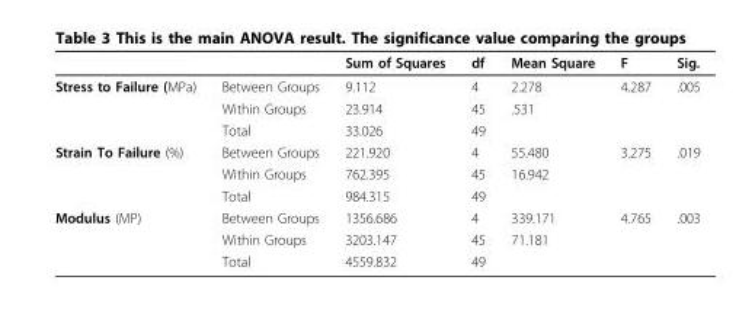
<table><thead><tr><td></td><td></td><td>Sum of Squares</td><td>df</td><td>Mean Square</td><td>F</td><td>Sig.</td></tr></thead><tbody><tr><td rowspan="3">Stress to Failure (MPa)</td><td>Between Groups</td><td>9.112</td><td>4</td><td>2.278</td><td>4.287</td><td>.005</td></tr><tr><td>Within Groups</td><td>23.914</td><td>45</td><td>.531</td><td></td><td></td></tr><tr><td>Total</td><td>33.026</td><td>49</td><td></td><td></td><td></td></tr><tr><td rowspan="3">Strain To Failure (%)</td><td>Between Groups</td><td>221.920</td><td>4</td><td>55.480</td><td>3.275</td><td>.019</td></tr><tr><td>Within Groups</td><td>762.395</td><td>45</td><td>16.942</td><td></td><td></td></tr><tr><td>Total</td><td>984.315</td><td>49</td><td></td><td></td><td></td></tr><tr><td rowspan="3">Modulus (MP)</td><td>Between Groups</td><td>1356.686</td><td>4</td><td>339.171</td><td>4.765</td><td>.003</td></tr><tr><td>Within Groups</td><td>3203.147</td><td>45</td><td>71.181</td><td></td><td></td></tr><tr><td>Total</td><td>4559.832</td><td>49</td><td></td><td></td><td></td></tr></tbody></table>